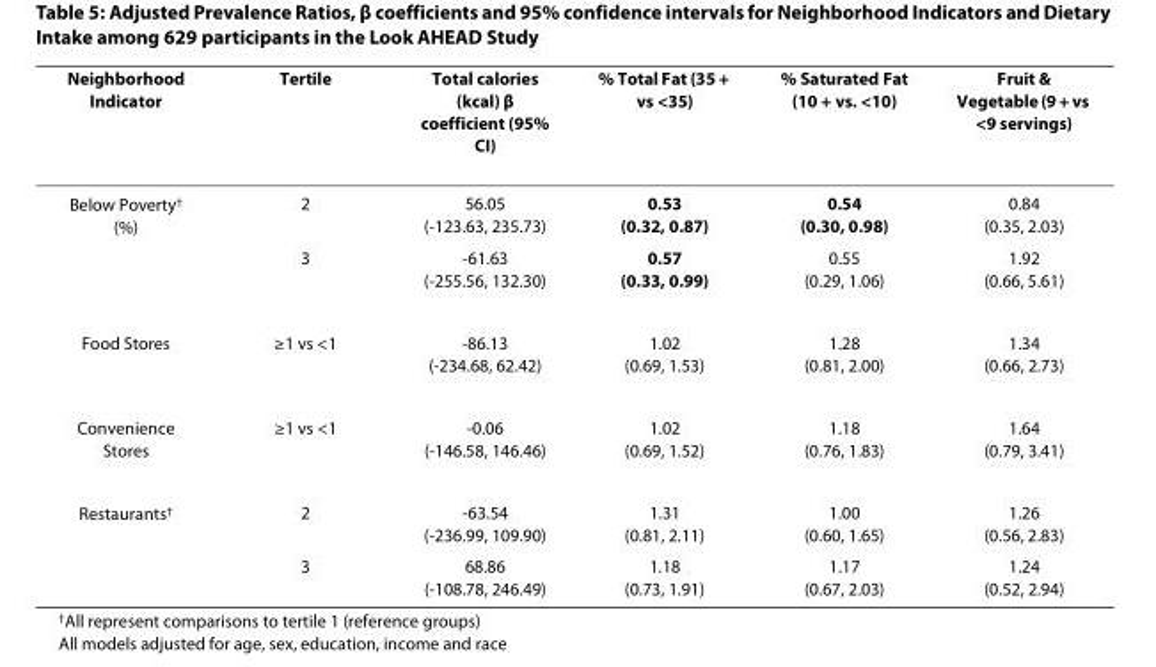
<table><thead><tr><td>Neighborhood Indicator</td><td>Tertile</td><td>Total calories (kcal) β coefficient (95% CI)</td><td>% Total Fat (35 + vs &lt;35)</td><td>% Saturated Fat (10 + vs. &lt;10)</td><td>Fruit &amp; Vegetable (9 + vs &lt;9 servings)</td></tr></thead><tbody><tr><td rowspan="2">Below Poverty<sup>†</sup> (%)</td><td>2</td><td>56.05 (-123.63, 235.73)</td><td>0.53 (0.32, 0.87)</td><td>0.54 (0.30, 0.98)</td><td>0.84 (0.35, 2.03)</td></tr><tr><td>3</td><td>-61.63 (-255.56, 132.30)</td><td>0.57 (0.33, 0.99)</td><td>0.55 (0.29, 1.06)</td><td>1.92 (0.66, 5.61)</td></tr><tr><td>Food Stores</td><td>≥1 vs &lt;1</td><td>-86.13 (-234.68, 62.42)</td><td>1.02 (0.69, 1.53)</td><td>1.28 (0.81, 2.00)</td><td>1.34 (0.66, 2.73)</td></tr><tr><td>Convenience Stores</td><td>≥1 vs &lt;1</td><td>-0.06 (-146.58, 146.46)</td><td>1.02 (0.69, 1.52)</td><td>1.18 (0.76, 1.83)</td><td>1.64 (0.79, 3.41)</td></tr><tr><td rowspan="2">Restaurants<sup>†</sup></td><td>2</td><td>-63.54 (-236.99, 109.90)</td><td>1.31 (0.81, 2.11)</td><td>1.00 (0.60, 1.65)</td><td>1.26 (0.56, 2.83)</td></tr><tr><td>3</td><td>68.86 (-108.78, 246.49)</td><td>1.18 (0.73, 1.91)</td><td>1.17 (0.67, 2.03)</td><td>1.24 (0.52, 2.94)</td></tr></tbody></table>